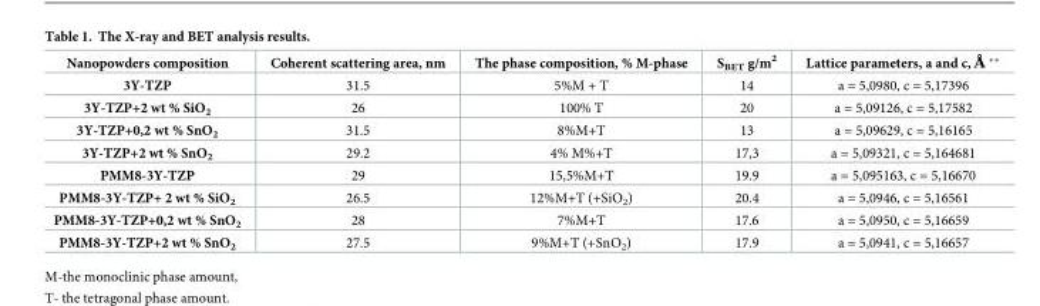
<table><thead><tr><td>Nanopowders composition</td><td>Coherent scattering area, nm</td><td>The phase composition, % M-phase</td><td>S<sub>BET</sub> g/m<sup>2</sup></td><td>Lattice parameters, a and c, Å</td></tr></thead><tbody><tr><td>3Y-TZP</td><td>31.5</td><td>5%M + T</td><td>14</td><td>a = 5,0980, c = 5,17396</td></tr><tr><td>3Y-TZP+2 wt % SiO<sub>2</sub></td><td>26</td><td>100% T</td><td>20</td><td>a = 5,09126, c = 5,17582</td></tr><tr><td>3Y-TZP+0,2 wt % SnO<sub>2</sub></td><td>31.5</td><td>8%M+T</td><td>13</td><td>a = 5,09629, c = 5,16165</td></tr><tr><td>3Y-TZP+2 wt % SnO<sub>2</sub></td><td>29.2</td><td>4% M%+T</td><td>17,3</td><td>a = 5,09321, c = 5,164681</td></tr><tr><td>PMM8-3Y-TZP</td><td>29</td><td>15,5%M+T</td><td>19.9</td><td>a = 5,095163, c = 5,16670</td></tr><tr><td>PMM8-3Y-TZP+ 2 wt % SiO<sub>2</sub></td><td>26.5</td><td>12%M+T (+SiO<sub>2</sub>)</td><td>20.4</td><td>a = 5,0946, c = 5,16561</td></tr><tr><td>PMM8-3Y-TZP+0,2 wt % SnO<sub>2</sub></td><td>28</td><td>7%M+T</td><td>17.6</td><td>a = 5,0950, c = 5,16659</td></tr><tr><td>PMM8-3Y-TZP+2 wt % SnO<sub>2</sub></td><td>27.5</td><td>9%M+T (+SnO<sub>2</sub>)</td><td>17.9</td><td>a = 5,0941, c = 5,16657</td></tr></tbody></table>